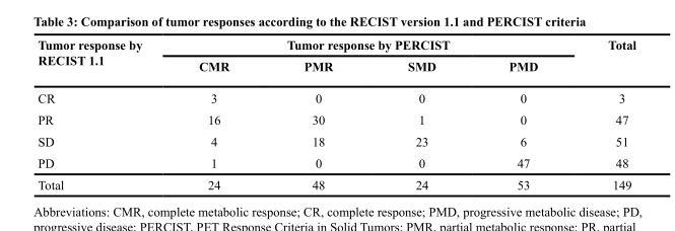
<table><thead><tr><td rowspan="2">Tumor response by RECIST 1.1</td><td colspan="4">Tumor response by PERCIST</td><td rowspan="2">Total</td></tr><tr><td>CMR</td><td>PMR</td><td>SMD</td><td>PMD</td></tr></thead><tbody><tr><td>CR</td><td>3</td><td>0</td><td>0</td><td>0</td><td>3</td></tr><tr><td>PR</td><td>16</td><td>30</td><td>1</td><td>0</td><td>47</td></tr><tr><td>SD</td><td>4</td><td>18</td><td>23</td><td>6</td><td>51</td></tr><tr><td>PD</td><td>1</td><td>0</td><td>0</td><td>47</td><td>48</td></tr><tr><td>Total</td><td>24</td><td>48</td><td>24</td><td>53</td><td>149</td></tr></tbody></table>